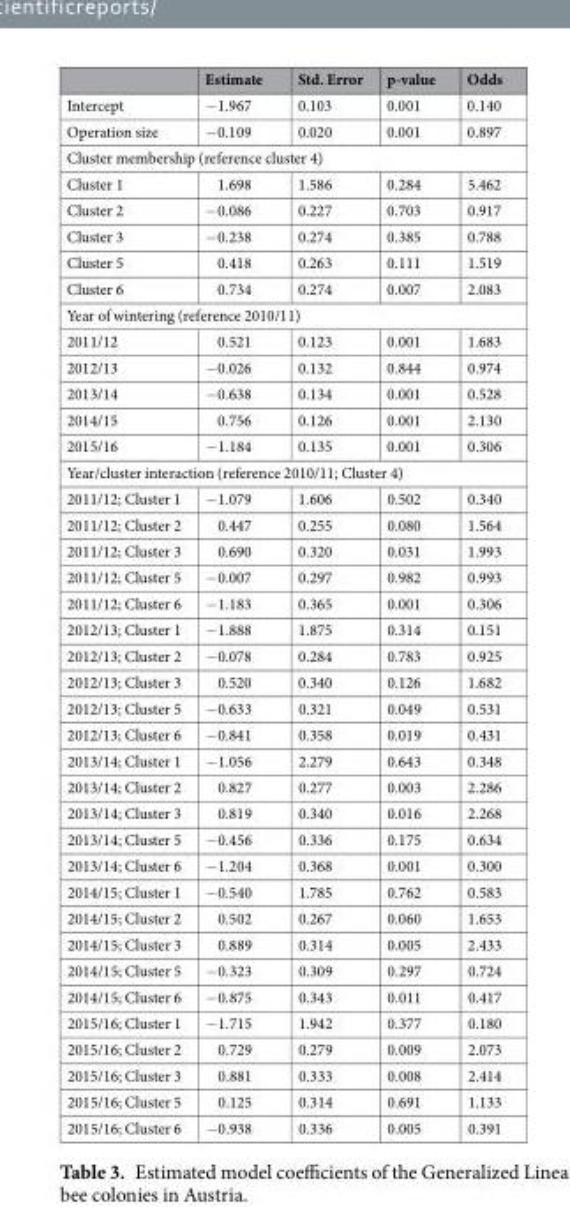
<table><thead><tr><td></td><td>Estimate</td><td>Std. Error</td><td>p-value</td><td>Odds</td></tr></thead><tbody><tr><td>Intercept</td><td>−1.967</td><td>0.103</td><td>0.001</td><td>0.140</td></tr><tr><td>Operation size</td><td>−0.109</td><td>0.020</td><td>0.001</td><td>0.897</td></tr><tr><td colspan="5">Cluster membership (reference cluster 4)</td></tr><tr><td>Cluster 1</td><td>1.698</td><td>1.586</td><td>0.284</td><td>5.462</td></tr><tr><td>Cluster 2</td><td>−0.086</td><td>0.227</td><td>0.703</td><td>0.917</td></tr><tr><td>Cluster 3</td><td>−0.238</td><td>0.274</td><td>0.385</td><td>0.788</td></tr><tr><td>Cluster 5</td><td>0.418</td><td>0.263</td><td>0.111</td><td>1.519</td></tr><tr><td>Cluster 6</td><td>0.734</td><td>0.274</td><td>0.007</td><td>2.083</td></tr><tr><td colspan="5">Year of wintering (reference 2010/11)</td></tr><tr><td>2011/12</td><td>0.521</td><td>0.123</td><td>0.001</td><td>1.683</td></tr><tr><td>2012/13</td><td>−0.026</td><td>0.132</td><td>0.844</td><td>0.974</td></tr><tr><td>2013/14</td><td>−0.638</td><td>0.134</td><td>0.001</td><td>0.528</td></tr><tr><td>2014/15</td><td>0.756</td><td>0.126</td><td>0.001</td><td>2.130</td></tr><tr><td>2015/16</td><td>−1.184</td><td>0.135</td><td>0.001</td><td>0.306</td></tr><tr><td colspan="5">Year/cluster interaction (reference 2010/11; Cluster 4)</td></tr><tr><td>2011/12; Cluster 1</td><td>−1.079</td><td>1.606</td><td>0.502</td><td>0.340</td></tr><tr><td>2011/12; Cluster 2</td><td>0.447</td><td>0.255</td><td>0.080</td><td>1.564</td></tr><tr><td>2011/12; Cluster 3</td><td>0.690</td><td>0.320</td><td>0.031</td><td>1.993</td></tr><tr><td>2011/12; Cluster 5</td><td>−0.007</td><td>0.297</td><td>0.982</td><td>0.993</td></tr><tr><td>2011/12; Cluster 6</td><td>−1.183</td><td>0.365</td><td>0.001</td><td>0.306</td></tr><tr><td>2012/13; Cluster 1</td><td>−1.888</td><td>1.875</td><td>0.314</td><td>0.151</td></tr><tr><td>2012/13; Cluster 2</td><td>−0.078</td><td>0.284</td><td>0.783</td><td>0.925</td></tr><tr><td>2012/13; Cluster 3</td><td>0.520</td><td>0.340</td><td>0.126</td><td>1.682</td></tr><tr><td>2012/13; Cluster 5</td><td>−0.633</td><td>0.321</td><td>0.049</td><td>0.531</td></tr><tr><td>2012/13; Cluster 6</td><td>−0.841</td><td>0.358</td><td>0.019</td><td>0.431</td></tr><tr><td>2013/14; Cluster 1</td><td>−1.056</td><td>2.279</td><td>0.643</td><td>0.348</td></tr><tr><td>2013/14; Cluster 2</td><td>0.827</td><td>0.277</td><td>0.003</td><td>2.286</td></tr><tr><td>2013/14; Cluster 3</td><td>0.819</td><td>0.340</td><td>0.016</td><td>2.268</td></tr><tr><td>2013/14; Cluster 5</td><td>−0.456</td><td>0.336</td><td>0.175</td><td>0.634</td></tr><tr><td>2013/14; Cluster 6</td><td>−1.204</td><td>0.368</td><td>0.001</td><td>0.300</td></tr><tr><td>2014/15; Cluster 1</td><td>−0.540</td><td>1.785</td><td>0.762</td><td>0.583</td></tr><tr><td>2014/15; Cluster 2</td><td>0.502</td><td>0.267</td><td>0.060</td><td>1.653</td></tr><tr><td>2014/15; Cluster 3</td><td>0.889</td><td>0.314</td><td>0.005</td><td>2.433</td></tr><tr><td>2014/15; Cluster 5</td><td>−0.323</td><td>0.309</td><td>0.297</td><td>0.724</td></tr><tr><td>2014/15; Cluster 6</td><td>−0.875</td><td>0.343</td><td>0.011</td><td>0.417</td></tr><tr><td>2015/16; Cluster 1</td><td>−1.715</td><td>1.942</td><td>0.377</td><td>0.180</td></tr><tr><td>2015/16; Cluster 2</td><td>0.729</td><td>0.279</td><td>0.009</td><td>2.073</td></tr><tr><td>2015/16; Cluster 3</td><td>0.881</td><td>0.333</td><td>0.008</td><td>2.414</td></tr><tr><td>2015/16; Cluster 5</td><td>0.125</td><td>0.314</td><td>0.691</td><td>1.133</td></tr><tr><td>2015/16; Cluster 6</td><td>−0.938</td><td>0.336</td><td>0.005</td><td>0.391</td></tr></tbody></table>